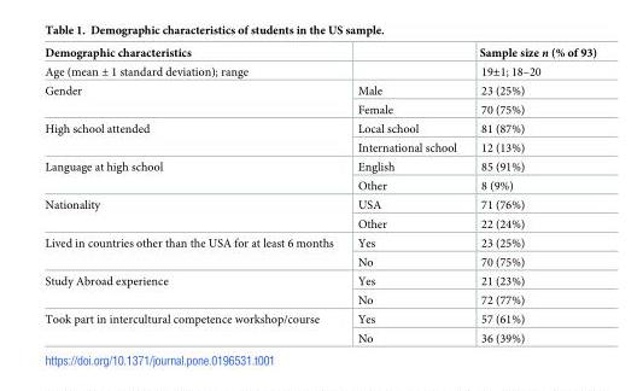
<table><thead><tr><td>Demographic characteristics</td><td></td><td>Sample size n (% of 93)</td></tr></thead><tbody><tr><td>Age (mean ± 1 standard deviation); range</td><td></td><td>19±1; 18–20</td></tr><tr><td rowspan="2">Gender</td><td>Male</td><td>23 (25%)</td></tr><tr><td>Female</td><td>70 (75%)</td></tr><tr><td rowspan="2">High school attended</td><td>Local school</td><td>81 (87%)</td></tr><tr><td>International school</td><td>12 (13%)</td></tr><tr><td rowspan="2">Language at high school</td><td>English</td><td>85 (91%)</td></tr><tr><td>Other</td><td>8 (9%)</td></tr><tr><td rowspan="2">Nationality</td><td>USA</td><td>71 (76%)</td></tr><tr><td>Other</td><td>22 (24%)</td></tr><tr><td rowspan="2">Lived in countries other than the USA for at least 6 months</td><td>Yes</td><td>23 (25%)</td></tr><tr><td>No</td><td>70 (75%)</td></tr><tr><td rowspan="2">Study Abroad experience</td><td>Yes</td><td>21 (23%)</td></tr><tr><td>No</td><td>72 (77%)</td></tr><tr><td rowspan="2">Took part in intercultural competence workshop/course</td><td>Yes</td><td>57 (61%)</td></tr><tr><td>No</td><td>36 (39%)</td></tr></tbody></table>